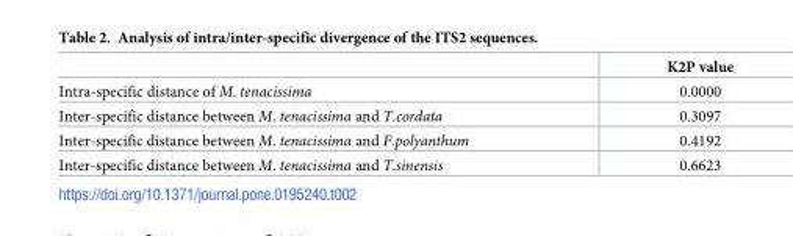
<table><thead><tr><td></td><td>K2P value</td></tr></thead><tbody><tr><td>Intra-specific distance of M. tenacissima</td><td>0.0000</td></tr><tr><td>Inter-specific distance between M. tenacissima and T.cordata</td><td>0.3097</td></tr><tr><td>Inter-specific distance between M. tenacissima and F.polyanthum</td><td>0.4192</td></tr><tr><td>Inter-specific distance between M. tenacissima and T.sinensis</td><td>0.6623</td></tr></tbody></table>